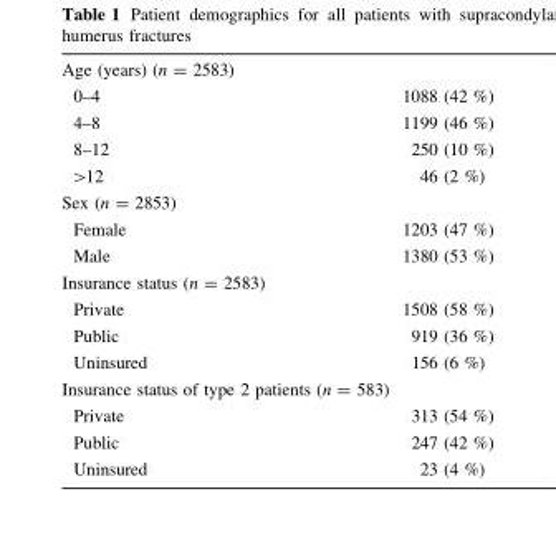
<table><tbody><tr><td colspan="2">Age (years) (n = 2583)</td></tr><tr><td>0–4</td><td>1088 (42 %)</td></tr><tr><td>4–8</td><td>1199 (46 %)</td></tr><tr><td>8–12</td><td>250 (10 %)</td></tr><tr><td>&gt;12</td><td>46 (2 %)</td></tr><tr><td colspan="2">Sex (n = 2853)</td></tr><tr><td>Female</td><td>1203 (47 %)</td></tr><tr><td>Male</td><td>1380 (53 %)</td></tr><tr><td colspan="2">Insurance status (n = 2583)</td></tr><tr><td>Private</td><td>1508 (58 %)</td></tr><tr><td>Public</td><td>919 (36 %)</td></tr><tr><td>Uninsured</td><td>156 (6 %)</td></tr><tr><td colspan="2">Insurance status of type 2 patients (n = 583)</td></tr><tr><td>Private</td><td>313 (54 %)</td></tr><tr><td>Public</td><td>247 (42 %)</td></tr><tr><td>Uninsured</td><td>23 (4 %)</td></tr></tbody></table>